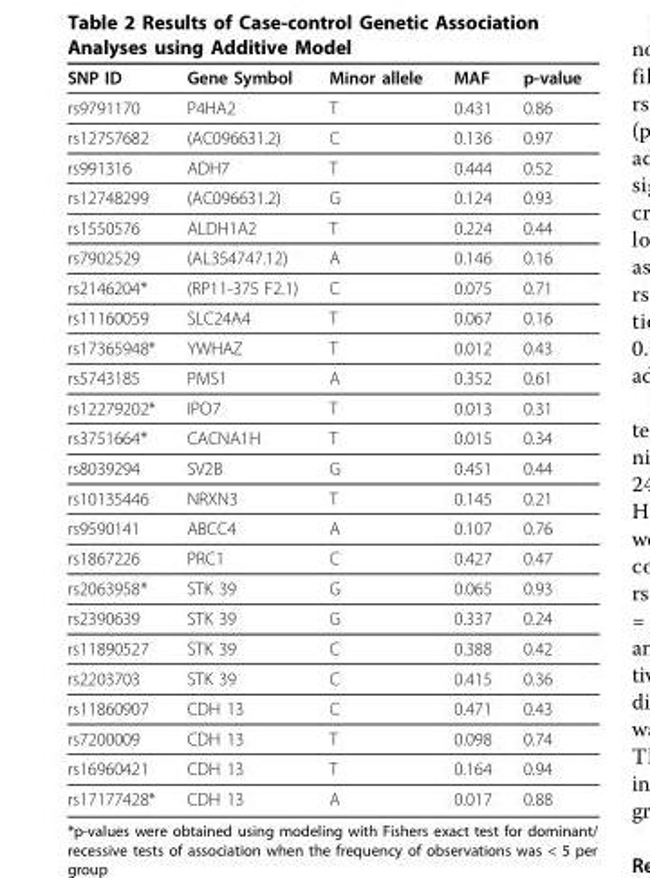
<table><thead><tr><td>SNP ID</td><td>Gene Symbol</td><td>Minor allele</td><td>MAF</td><td>p-value</td></tr></thead><tbody><tr><td>rs9791170</td><td>P4HA2</td><td>T</td><td>0.431</td><td>0.86</td></tr><tr><td>rs12757682</td><td>(AC096631.2)</td><td>C</td><td>0.136</td><td>0.97</td></tr><tr><td>rs991316</td><td>ADH7</td><td>T</td><td>0.444</td><td>0.52</td></tr><tr><td>rs12748299</td><td>(AC096631.2)</td><td>G</td><td>0.124</td><td>0.93</td></tr><tr><td>rs1550576</td><td>ALDH1A2</td><td>T</td><td>0.224</td><td>0.44</td></tr><tr><td>rs7902529</td><td>(AL354747.12)</td><td>A</td><td>0.146</td><td>0.16</td></tr><tr><td>rs2146204*</td><td>(RP11-375 F2.1)</td><td>C</td><td>0.075</td><td>0.71</td></tr><tr><td>rs11160059</td><td>SLC24A4</td><td>T</td><td>0.067</td><td>0.16</td></tr><tr><td>rs17365948*</td><td>YWHAZ</td><td>T</td><td>0.012</td><td>0.43</td></tr><tr><td>rs5743185</td><td>PMS1</td><td>A</td><td>0.352</td><td>0.61</td></tr><tr><td>rs12279202*</td><td>IPO7</td><td>T</td><td>0.013</td><td>0.31</td></tr><tr><td>rs3751664*</td><td>CACNA1H</td><td>T</td><td>0.015</td><td>0.34</td></tr><tr><td>rs8039294</td><td>SV2B</td><td>G</td><td>0.451</td><td>0.44</td></tr><tr><td>rs10135446</td><td>NRXN3</td><td>T</td><td>0.145</td><td>0.21</td></tr><tr><td>rs9590141</td><td>ABCC4</td><td>A</td><td>0.107</td><td>0.76</td></tr><tr><td>rs1867226</td><td>PRC1</td><td>C</td><td>0.427</td><td>0.47</td></tr><tr><td>rs2063958*</td><td>STK 39</td><td>G</td><td>0.065</td><td>0.93</td></tr><tr><td>rs2390639</td><td>STK 39</td><td>G</td><td>0.337</td><td>0.24</td></tr><tr><td>rs11890527</td><td>STK 39</td><td>C</td><td>0.388</td><td>0.42</td></tr><tr><td>rs2203703</td><td>STK 39</td><td>C</td><td>0.415</td><td>0.36</td></tr><tr><td>rs11860907</td><td>CDH 13</td><td>C</td><td>0.471</td><td>0.43</td></tr><tr><td>rs7200009</td><td>CDH 13</td><td>T</td><td>0.098</td><td>0.74</td></tr><tr><td>rs16960421</td><td>CDH 13</td><td>T</td><td>0.164</td><td>0.94</td></tr><tr><td>rs17177428*</td><td>CDH 13</td><td>A</td><td>0.017</td><td>0.88</td></tr></tbody></table>